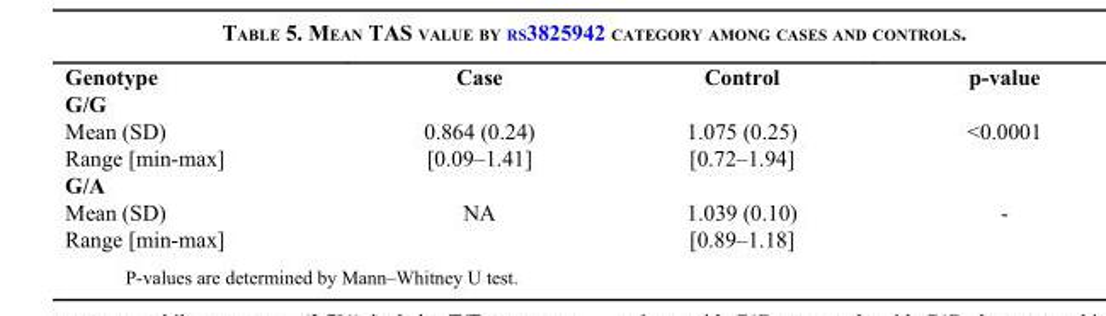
<table><thead><tr><td>Genotype</td><td>Case</td><td>Control</td><td>p-value</td></tr></thead><tbody><tr><td colspan="4">G/G</td></tr><tr><td>Mean (SD)</td><td>0.864 (0.24)</td><td>1.075 (0.25)</td><td>&lt;0.0001</td></tr><tr><td>Range [min-max]</td><td>[0.09–1.41]</td><td>[0.72–1.94]</td><td></td></tr><tr><td colspan="4">G/A</td></tr><tr><td>Mean (SD)</td><td>NA</td><td>1.039 (0.10)</td><td>-</td></tr><tr><td>Range [min-max]</td><td></td><td>[0.89–1.18]</td><td></td></tr></tbody></table>